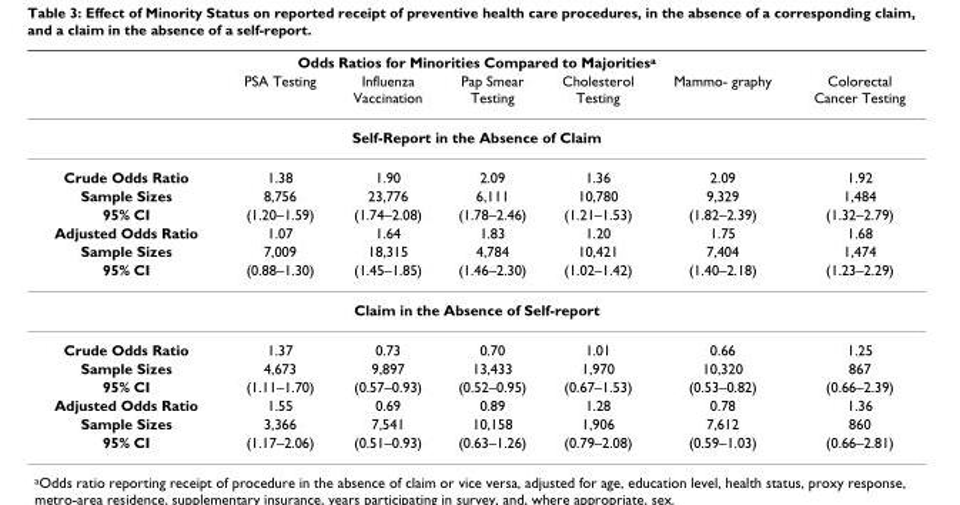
<table><thead><tr><td colspan="7">Odds Ratios for Minorities Compared to Majoritiesa</td></tr><tr><td></td><td>PSA Testing</td><td>Influenza Vaccination</td><td>Pap Smear Testing</td><td>Cholesterol Testing</td><td>Mammo- graphy</td><td>Colorectal Cancer Testing</td></tr></thead><tbody><tr><td colspan="7">Self-Report in the Absence of Claim</td></tr><tr><td>Crude Odds Ratio</td><td>1.38</td><td>1.90</td><td>2.09</td><td>1.36</td><td>2.09</td><td>1.92</td></tr><tr><td>Sample Sizes</td><td>8,756</td><td>23,776</td><td>6,111</td><td>10,780</td><td>9,329</td><td>1,484</td></tr><tr><td>95% CI</td><td>(1.20–1.59)</td><td>(1.74–2.08)</td><td>(1.78–2.46)</td><td>(1.21–1.53)</td><td>(1.82–2.39)</td><td>(1.32–2.79)</td></tr><tr><td>Adjusted Odds Ratio</td><td>1.07</td><td>1.64</td><td>1.83</td><td>1.20</td><td>1.75</td><td>1.68</td></tr><tr><td>Sample Sizes</td><td>7,009</td><td>18,315</td><td>4,784</td><td>10,421</td><td>7,404</td><td>1,474</td></tr><tr><td>95% CI</td><td>(0.88–1.30)</td><td>(1.45–1.85)</td><td>(1.46–2.30)</td><td>(1.02–1.42)</td><td>(1.40–2.18)</td><td>(1.23–2.29)</td></tr><tr><td colspan="7">Claim in the Absence of Self-report</td></tr><tr><td>Crude Odds Ratio</td><td>1.37</td><td>0.73</td><td>0.70</td><td>1.01</td><td>0.66</td><td>1.25</td></tr><tr><td>Sample Sizes</td><td>4,673</td><td>9,897</td><td>13,433</td><td>1,970</td><td>10,320</td><td>867</td></tr><tr><td>95% CI</td><td>(1.11–1.70)</td><td>(0.57–0.93)</td><td>(0.52–0.95)</td><td>(0.67–1.53)</td><td>(0.53–0.82)</td><td>(0.66–2.39)</td></tr><tr><td>Adjusted Odds Ratio</td><td>1.55</td><td>0.69</td><td>0.89</td><td>1.28</td><td>0.78</td><td>1.36</td></tr><tr><td>Sample Sizes</td><td>3,366</td><td>7,541</td><td>10,158</td><td>1,906</td><td>7,612</td><td>860</td></tr><tr><td>95% CI</td><td>(1.17–2.06)</td><td>(0.51–0.93)</td><td>(0.63–1.26)</td><td>(0.79–2.08)</td><td>(0.59–1.03)</td><td>(0.66–2.81)</td></tr></tbody></table>